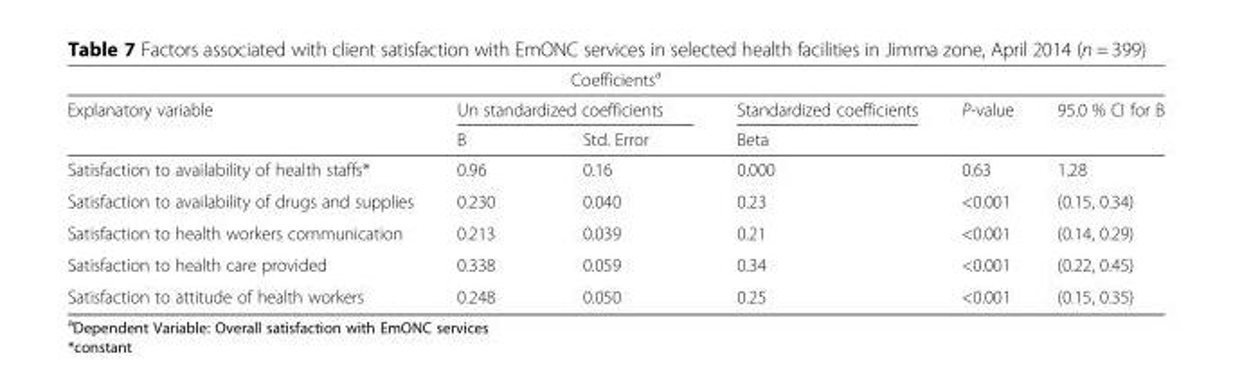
<table><thead><tr><td colspan="6">Coefficients<sup>a</sup></td></tr><tr><td rowspan="2">Explanatory variable</td><td colspan="2">Un standardized coefficients</td><td rowspan="2">Standardized coefficients Beta</td><td rowspan="2">P-value</td><td rowspan="2">95.0 % CI for B</td></tr><tr><td>B</td><td>Std. Error</td></tr></thead><tbody><tr><td>Satisfaction to availability of health staffs*</td><td>0.96</td><td>0.16</td><td>0.000</td><td>0.63</td><td>1.28</td></tr><tr><td>Satisfaction to availability of drugs and supplies</td><td>0.230</td><td>0.040</td><td>0.23</td><td>&lt;0.001</td><td>(0.15, 0.34)</td></tr><tr><td>Satisfaction to health workers communication</td><td>0.213</td><td>0.039</td><td>0.21</td><td>&lt;0.001</td><td>(0.14, 0.29)</td></tr><tr><td>Satisfaction to health care provided</td><td>0.338</td><td>0.059</td><td>0.34</td><td>&lt;0.001</td><td>(0.22, 0.45)</td></tr><tr><td>Satisfaction to attitude of health workers</td><td>0.248</td><td>0.050</td><td>0.25</td><td>&lt;0.001</td><td>(0.15, 0.35)</td></tr></tbody></table>